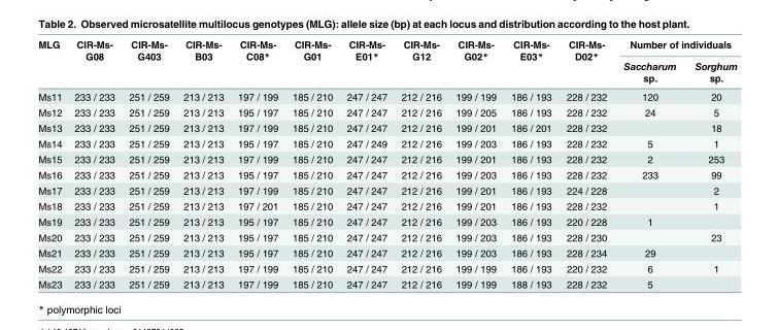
<table><thead><tr><td rowspan="2">MLG</td><td rowspan="2">CIR-Ms- G08</td><td rowspan="2">CIR-Ms- G403</td><td rowspan="2">CIR-Ms- B03</td><td rowspan="2">CIR-Ms- C08*</td><td rowspan="2">CIR-Ms- G01</td><td rowspan="2">CIR-Ms- E01*</td><td rowspan="2">CIR-Ms- G12</td><td rowspan="2">CIR-Ms- G02*</td><td rowspan="2">CIR-Ms- E03*</td><td rowspan="2">CIR-Ms- D02*</td><td colspan="2">Number of individuals</td></tr><tr><td>Saccharum sp.</td><td>Sorghum sp.</td></tr></thead><tbody><tr><td>Ms11</td><td>233 / 233</td><td>251 / 259</td><td>213 / 213</td><td>197 / 199</td><td>185 / 210</td><td>247 / 247</td><td>212 / 216</td><td>199 / 199</td><td>186 / 193</td><td>228 / 232</td><td>120</td><td>20</td></tr><tr><td>Ms12</td><td>233 / 233</td><td>251 / 259</td><td>213 / 213</td><td>195 / 197</td><td>185 / 210</td><td>247 / 247</td><td>212 / 216</td><td>199 / 205</td><td>186 / 193</td><td>228 / 232</td><td>24</td><td>5</td></tr><tr><td>Ms13</td><td>233 / 233</td><td>251 / 259</td><td>213 / 213</td><td>197 / 199</td><td>185 / 210</td><td>247 / 247</td><td>212 / 216</td><td>199 / 201</td><td>186 / 201</td><td>228 / 232</td><td></td><td>18</td></tr><tr><td>Ms14</td><td>233 / 233</td><td>251 / 259</td><td>213 / 213</td><td>195 / 197</td><td>185 / 210</td><td>247 / 249</td><td>212 / 216</td><td>199 / 203</td><td>186 / 193</td><td>228 / 232</td><td>5</td><td>1</td></tr><tr><td>Ms15</td><td>233 / 233</td><td>251 / 259</td><td>213 / 213</td><td>197 / 199</td><td>185 / 210</td><td>247 / 247</td><td>212 / 216</td><td>199 / 201</td><td>186 / 193</td><td>228 / 232</td><td>2</td><td>253</td></tr><tr><td>Ms16</td><td>233 / 233</td><td>251 / 259</td><td>213 / 213</td><td>195 / 197</td><td>185 / 210</td><td>247 / 247</td><td>212 / 216</td><td>199 / 203</td><td>186 / 193</td><td>228 / 232</td><td>233</td><td>99</td></tr><tr><td>Ms17</td><td>233 / 233</td><td>251 / 259</td><td>213 / 213</td><td>197 / 199</td><td>185 / 210</td><td>247 / 247</td><td>212 / 216</td><td>199 / 201</td><td>186 / 193</td><td>224 / 228</td><td></td><td>2</td></tr><tr><td>Ms18</td><td>233 / 233</td><td>251 / 259</td><td>213 / 213</td><td>197 / 201</td><td>185 / 210</td><td>247 / 247</td><td>212 / 216</td><td>199 / 201</td><td>186 / 193</td><td>228 / 232</td><td></td><td>1</td></tr><tr><td>Ms19</td><td>233 / 233</td><td>251 / 259</td><td>213 / 213</td><td>195 / 197</td><td>185 / 210</td><td>247 / 247</td><td>212 / 216</td><td>199 / 203</td><td>186 / 193</td><td>220 / 228</td><td>1</td><td></td></tr><tr><td>Ms20</td><td>233 / 233</td><td>251 / 259</td><td>213 / 213</td><td>195 / 197</td><td>185 / 210</td><td>247 / 247</td><td>212 / 216</td><td>199 / 203</td><td>186 / 193</td><td>228 / 230</td><td></td><td>23</td></tr><tr><td>Ms21</td><td>233 / 233</td><td>251 / 259</td><td>213 / 213</td><td>195 / 197</td><td>185 / 210</td><td>247 / 247</td><td>212 / 216</td><td>199 / 203</td><td>186 / 193</td><td>228 / 234</td><td>29</td><td></td></tr><tr><td>Ms22</td><td>233 / 233</td><td>251 / 259</td><td>213 / 213</td><td>197 / 199</td><td>185 / 210</td><td>247 / 247</td><td>212 / 216</td><td>199 / 199</td><td>186 / 193</td><td>220 / 232</td><td>6</td><td>1</td></tr><tr><td>Ms23</td><td>233 / 233</td><td>251 / 259</td><td>213 / 213</td><td>197 / 199</td><td>185 / 210</td><td>247 / 247</td><td>212 / 216</td><td>199 / 199</td><td>188 / 193</td><td>228 / 232</td><td>5</td><td></td></tr></tbody></table>